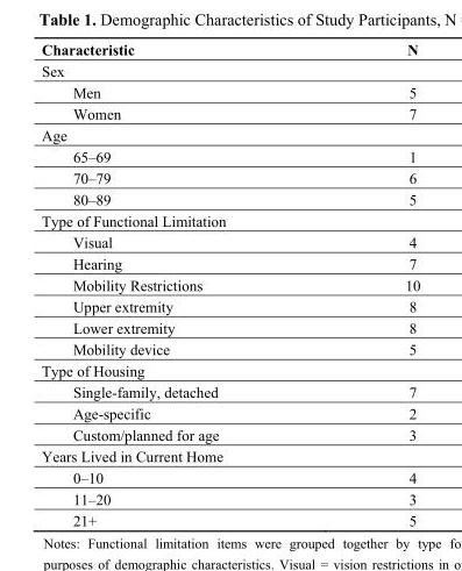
<table><thead><tr><td>Characteristic</td><td>N</td></tr></thead><tbody><tr><td colspan="2">Sex</td></tr><tr><td>Men</td><td>5</td></tr><tr><td>Women</td><td>7</td></tr><tr><td colspan="2">Age</td></tr><tr><td>65–69</td><td>1</td></tr><tr><td>70–79</td><td>6</td></tr><tr><td>80–89</td><td>5</td></tr><tr><td colspan="2">Type of Functional Limitation</td></tr><tr><td>Visual</td><td>4</td></tr><tr><td>Hearing</td><td>7</td></tr><tr><td>Mobility Restrictions</td><td>10</td></tr><tr><td>Upper extremity</td><td>8</td></tr><tr><td>Lower extremity</td><td>8</td></tr><tr><td>Mobility device</td><td>5</td></tr><tr><td colspan="2">Type of Housing</td></tr><tr><td>Single-family, detached</td><td>7</td></tr><tr><td>Age-specific</td><td>2</td></tr><tr><td>Custom/planned for age</td><td>3</td></tr><tr><td colspan="2">Years Lived in Current Home</td></tr><tr><td>0–10</td><td>4</td></tr><tr><td>11–20</td><td>3</td></tr><tr><td>21+</td><td>5</td></tr></tbody></table>